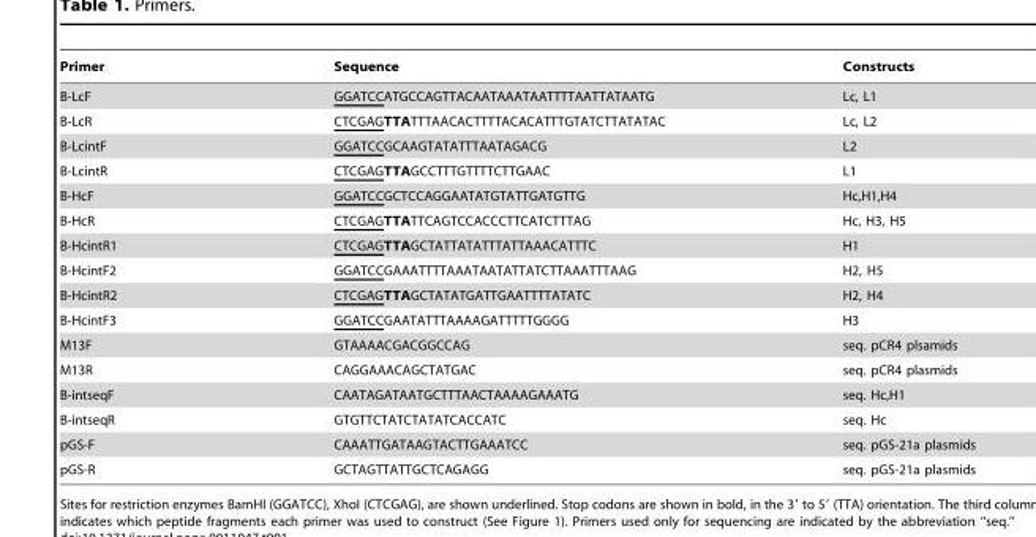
<table><thead><tr><td>Primer</td><td>Sequence</td><td>Constructs</td></tr></thead><tbody><tr><td>B-LcF</td><td>GGATCCATGCCAGTTACAATAAATAATTTTAATTATAATG</td><td>Lc, L1</td></tr><tr><td>B-LcR</td><td>CTCGAGTTATTTAACACTTTTACACATTTGTATCTTATATAC</td><td>Lc, L2</td></tr><tr><td>B-LcintF</td><td>GGATCCGCAAGTATATTTAATAGACG</td><td>L2</td></tr><tr><td>B-LcintR</td><td>CTCGAGTTAGCCTTTGTTTTCTTGAAC</td><td>L1</td></tr><tr><td>B-HcF</td><td>GGATCCGCTCCAGGAATATGTATTGATGTTG</td><td>Hc,H1,H4</td></tr><tr><td>B-HcR</td><td>CTCGAGTTATTCAGTCCACCCTTCATCTTTAG</td><td>Hc, H3, H5</td></tr><tr><td>B-HcintR1</td><td>CTCGAGTTAGCTATTATATTTATTAAACATTTC</td><td>H1</td></tr><tr><td>B-HcintF2</td><td>GGATCCGAAATTTTAAATAATATTATCTTAAATTTAAG</td><td>H2, H5</td></tr><tr><td>B-HcintR2</td><td>CTCGAGTTAGCTATATGATTGAATTTTATATC</td><td>H2, H4</td></tr><tr><td>B-HcintF3</td><td>GGATCCGAATATTTAAAAGATTTTTGGGG</td><td>H3</td></tr><tr><td>M13F</td><td>GTAAAACGACGGCCAG</td><td>seq. pCR4 plsamids</td></tr><tr><td>M13R</td><td>CAGGAAACAGCTATGAC</td><td>seq. pCR4 plasmids</td></tr><tr><td>B-intseqF</td><td>CAATAGATAATGCTTTAACTAAAAGAAATG</td><td>seq. Hc,H1</td></tr><tr><td>B-intseqR</td><td>GTGTTCTATCTATATCACCATC</td><td>seq. Hc</td></tr><tr><td>pGS-F</td><td>CAAATTGATAAGTACTTGAAATCC</td><td>seq. pGS-21a plasmids</td></tr><tr><td>pGS-R</td><td>GCTAGTTATTGCTCAGAGG</td><td>seq. pGS-21a plasmids</td></tr></tbody></table>